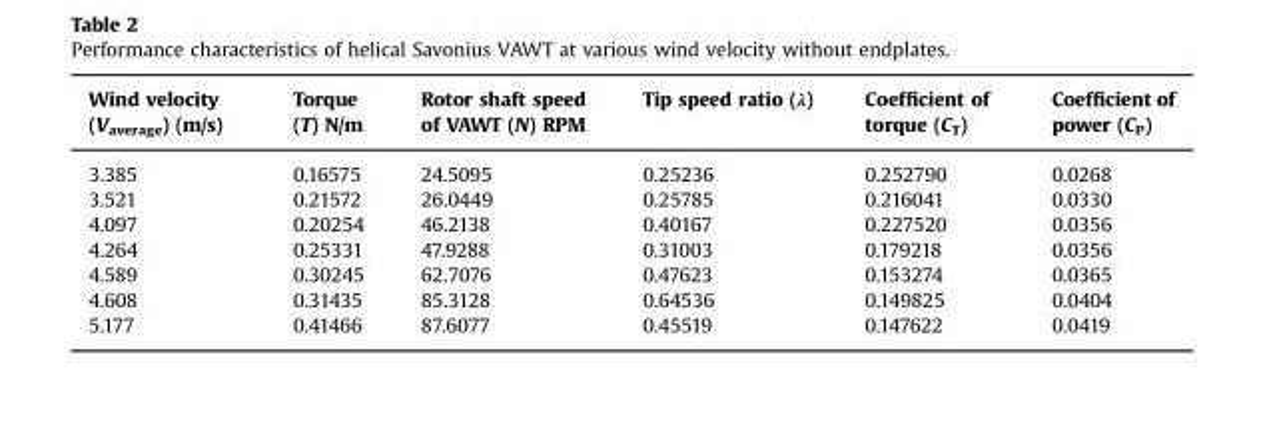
<table><thead><tr><td>Wind velocity (V<sub>average</sub>) (m/s)</td><td>Torque (T) N/m</td><td>Rotor shaft speed of VAWT (N) RPM</td><td>Tip speed ratio (λ)</td><td>Coefficient of torque (C<sub>T</sub>)</td><td>Coefficient of power (C<sub>P</sub>)</td></tr></thead><tbody><tr><td>3.385</td><td>0.16575</td><td>24.5095</td><td>0.25236</td><td>0.252790</td><td>0.0268</td></tr><tr><td>3.521</td><td>0.21572</td><td>26.0449</td><td>0.25785</td><td>0.216041</td><td>0.0330</td></tr><tr><td>4.097</td><td>0.20254</td><td>46.2138</td><td>0.40167</td><td>0.227520</td><td>0.0356</td></tr><tr><td>4.264</td><td>0.25331</td><td>47.9288</td><td>0.31003</td><td>0.179218</td><td>0.0356</td></tr><tr><td>4.589</td><td>0.30245</td><td>62.7076</td><td>0.47623</td><td>0.153274</td><td>0.0365</td></tr><tr><td>4.608</td><td>0.31435</td><td>85.3128</td><td>0.64536</td><td>0.149825</td><td>0.0404</td></tr><tr><td>5.177</td><td>0.41466</td><td>87.6077</td><td>0.45519</td><td>0.147622</td><td>0.0419</td></tr></tbody></table>